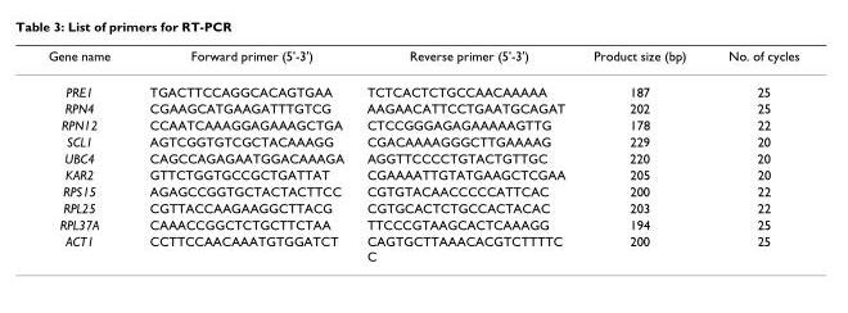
<table><thead><tr><td>Gene name</td><td>Forward primer (5&#x27;-3&#x27;)</td><td>Reverse primer (5&#x27;-3&#x27;)</td><td>Product size (bp)</td><td>No. of cycles</td></tr></thead><tbody><tr><td>PRE1</td><td>TGACTTCCAGGCACAGTGAA</td><td>TCTCACTCTGCCAACAAAAA</td><td>187</td><td>25</td></tr><tr><td>RPN4</td><td>CGAAGCATGAAGATTTGTCG</td><td>AAGAACATTCCTGAATGCAGAT</td><td>202</td><td>25</td></tr><tr><td>RPN12</td><td>CCAATCAAAGGAGAAAGCTGA</td><td>CTCCGGGAGAGAAAAAGTTG</td><td>178</td><td>22</td></tr><tr><td>SCL1</td><td>AGTCGGTGTCGCTACAAAGG</td><td>CGACAAAAGGGCTTGAAAAG</td><td>229</td><td>20</td></tr><tr><td>UBC4</td><td>CAGCCAGAGAATGGACAAAGA</td><td>AGGTTCCCCTGTACTGTTGC</td><td>220</td><td>20</td></tr><tr><td>KAR2</td><td>GTTCTGGTGCCGCTGATTAT</td><td>CGAAAATTGTATGAAGCTCGAA</td><td>205</td><td>20</td></tr><tr><td>RPS15</td><td>AGAGCCGGTGCTACTACTTCC</td><td>CGTGTACAACCCCCATTCAC</td><td>200</td><td>22</td></tr><tr><td>RPL25</td><td>CGTTACCAAGAAGGCTTACG</td><td>CGTGCACTCTGCCACTACAC</td><td>203</td><td>22</td></tr><tr><td>RPL37A</td><td>CAAACCGGCTCTGCTTCTAA</td><td>TTCCCGTAAGCACTCAAAGG</td><td>194</td><td>25</td></tr><tr><td>ACT1</td><td>CCTTCCAACAAATGTGGATCT</td><td>CAGTGCTTAAACACGTCTTTTC C</td><td>200</td><td>25</td></tr></tbody></table>